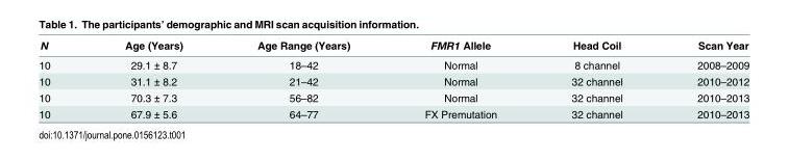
<table><thead><tr><td>N</td><td>Age (Years)</td><td>Age Range (Years)</td><td>FMR1 Allele</td><td>Head Coil</td><td>Scan Year</td></tr></thead><tbody><tr><td>10</td><td>29.1 ± 8.7</td><td>18–42</td><td>Normal</td><td>8 channel</td><td>2008–2009</td></tr><tr><td>10</td><td>31.1 ± 8.2</td><td>21–42</td><td>Normal</td><td>32 channel</td><td>2010–2012</td></tr><tr><td>10</td><td>70.3 ± 7.3</td><td>56–82</td><td>Normal</td><td>32 channel</td><td>2010–2013</td></tr><tr><td>10</td><td>67.9 ± 5.6</td><td>64–77</td><td>FX Premutation</td><td>32 channel</td><td>2010–2013</td></tr></tbody></table>